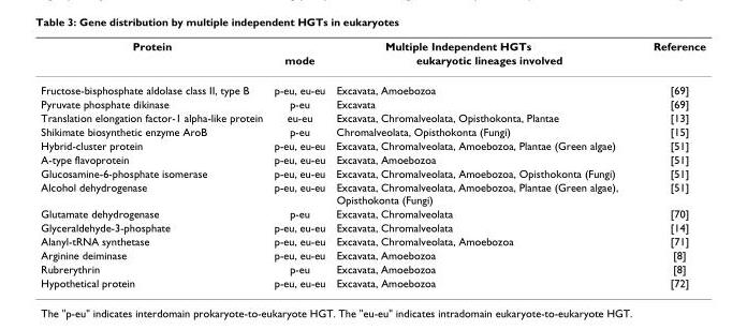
<table><thead><tr><td rowspan="2">Protein</td><td colspan="2">Multiple Independent HGTs</td><td rowspan="2">Reference</td></tr><tr><td>mode</td><td>eukaryotic lineages involved</td></tr></thead><tbody><tr><td>Fructose-bisphosphate aldolase class II, type B</td><td>p-eu, eu-eu</td><td>Excavata, Amoebozoa</td><td>[69]</td></tr><tr><td>Pyruvate phosphate dikinase</td><td>p-eu</td><td>Excavata</td><td>[69]</td></tr><tr><td>Translation elongation factor-1 alpha-like protein</td><td>eu-eu</td><td>Excavata, Chromalveolata, Opisthokonta, Plantae</td><td>[13]</td></tr><tr><td>Shikimate biosynthetic enzyme AroB</td><td>p-eu</td><td>Chromalveolata, Opisthokonta (Fungi)</td><td>[15]</td></tr><tr><td>Hybrid-cluster protein</td><td>p-eu, eu-eu</td><td>Excavata, Chromalveolata, Amoebozoa, Plantae (Green algae)</td><td>[51]</td></tr><tr><td>A-type flavoprotein</td><td>p-eu, eu-eu</td><td>Excavata, Amoebozoa</td><td>[51]</td></tr><tr><td>Glucosamine-6-phosphate isomerase</td><td>p-eu, eu-eu</td><td>Excavata, Chromalveolata, Amoebozoa, Opisthokonta (Fungi)</td><td>[51]</td></tr><tr><td>Alcohol dehydrogenase</td><td>p-eu, eu-eu</td><td>Excavata, Chromalveolata, Amoebozoa, Plantae (Green algae), Opisthokonta (Fungi)</td><td>[51]</td></tr><tr><td>Glutamate dehydrogenase</td><td>p-eu</td><td>Excavata, Chromalveolata</td><td>[70]</td></tr><tr><td>Glyceraldehyde-3-phosphate</td><td>p-eu, eu-eu</td><td>Excavata, Chromalveolata</td><td>[14]</td></tr><tr><td>Alanyl-tRNA synthetase</td><td>p-eu, eu-eu</td><td>Excavata, Chromalveolata, Amoebozoa</td><td>[71]</td></tr><tr><td>Arginine deiminase</td><td>p-eu, eu-eu</td><td>Excavata, Amoebozoa</td><td>[8]</td></tr><tr><td>Rubrerythrin</td><td>p-eu</td><td>Excavata, Amoebozoa</td><td>[8]</td></tr><tr><td>Hypothetical protein</td><td>p-eu, eu-eu</td><td>Excavata, Amoebozoa</td><td>[72]</td></tr></tbody></table>